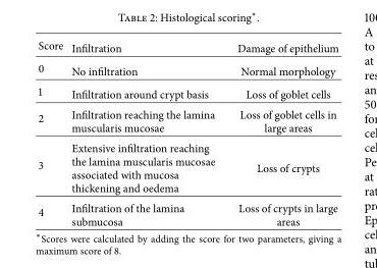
<table><thead><tr><td>Score</td><td>Infiltration</td><td>Damage of epithelium</td></tr></thead><tbody><tr><td>0</td><td>No infiltration</td><td>Normal morphology</td></tr><tr><td>1</td><td>Infiltration around crypt basis</td><td>Loss of goblet cells</td></tr><tr><td>2</td><td>Infiltration reaching the lamina muscularis mucosae</td><td>Loss of goblet cells in large areas</td></tr><tr><td>3</td><td>Extensive infiltration reaching the lamina muscularis mucosae associated with mucosa thickening and oedema</td><td>Loss of crypts</td></tr><tr><td>4</td><td>Infiltration of the lamina submucosa</td><td>Loss of crypts in large areas</td></tr></tbody></table>